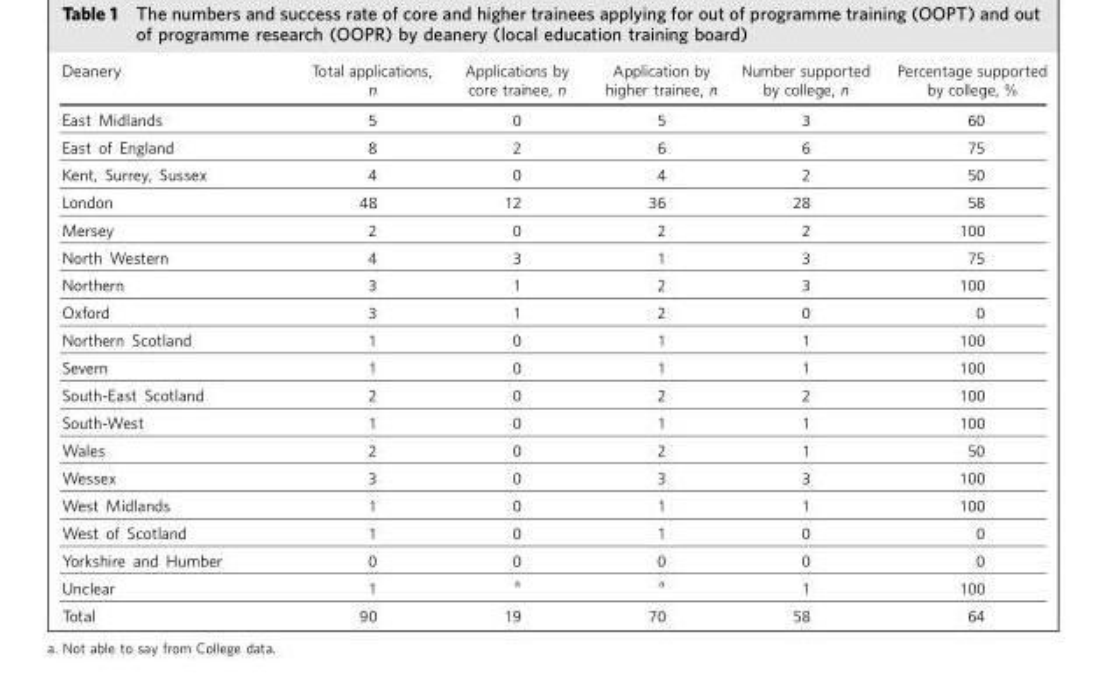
<table><thead><tr><td>Deanery</td><td>Total applications, n</td><td>Applications by core trainee, n</td><td>Application by higher trainee, n</td><td>Number supported by college, n</td><td>Percentage supported by college, %</td></tr></thead><tbody><tr><td>East Midlands</td><td>5</td><td>0</td><td>5</td><td>3</td><td>60</td></tr><tr><td>East of England</td><td>8</td><td>2</td><td>6</td><td>6</td><td>75</td></tr><tr><td>Kent, Surrey, Sussex</td><td>4</td><td>0</td><td>4</td><td>2</td><td>50</td></tr><tr><td>London</td><td>48</td><td>12</td><td>36</td><td>28</td><td>58</td></tr><tr><td>Mersey</td><td>2</td><td>0</td><td>2</td><td>2</td><td>100</td></tr><tr><td>North Western</td><td>4</td><td>3</td><td>1</td><td>3</td><td>75</td></tr><tr><td>Northern</td><td>3</td><td>1</td><td>2</td><td>3</td><td>100</td></tr><tr><td>Oxford</td><td>3</td><td>1</td><td>2</td><td>0</td><td>0</td></tr><tr><td>Northern Scotland</td><td>1</td><td>0</td><td>1</td><td>1</td><td>100</td></tr><tr><td>Severn</td><td>1</td><td>0</td><td>1</td><td>1</td><td>100</td></tr><tr><td>South-East Scotland</td><td>2</td><td>0</td><td>2</td><td>2</td><td>100</td></tr><tr><td>South-West</td><td>1</td><td>0</td><td>1</td><td>1</td><td>100</td></tr><tr><td>Wales</td><td>2</td><td>0</td><td>2</td><td>1</td><td>50</td></tr><tr><td>Wessex</td><td>3</td><td>0</td><td>3</td><td>3</td><td>100</td></tr><tr><td>West Midlands</td><td>1</td><td>0</td><td>1</td><td>1</td><td>100</td></tr><tr><td>West of Scotland</td><td>1</td><td>0</td><td>1</td><td>0</td><td>0</td></tr><tr><td>Yorkshire and Humber</td><td>0</td><td>0</td><td>0</td><td>0</td><td>0</td></tr><tr><td>Unclear</td><td>1</td><td><sup>a</sup></td><td><sup>a</sup></td><td>1</td><td>100</td></tr><tr><td>Total</td><td>90</td><td>19</td><td>70</td><td>58</td><td>64</td></tr></tbody></table>